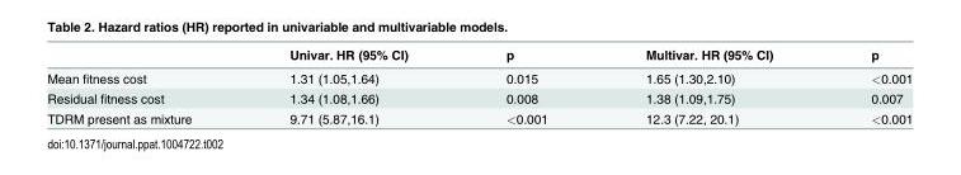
<table><thead><tr><td></td><td>Univar. HR (95% CI)</td><td>p</td><td>Multivar. HR (95% CI)</td><td>p</td></tr></thead><tbody><tr><td>Mean fitness cost</td><td>1.31 (1.05,1.64)</td><td>0.015</td><td>1.65 (1.30,2.10)</td><td>&lt;0.001</td></tr><tr><td>Residual fitness cost</td><td>1.34 (1.08,1.66)</td><td>0.008</td><td>1.38 (1.09,1.75)</td><td>0.007</td></tr><tr><td>TDRM present as mixture</td><td>9.71 (5.87,16.1)</td><td>&lt;0.001</td><td>12.3 (7.22, 20.1)</td><td>&lt;0.001</td></tr></tbody></table>